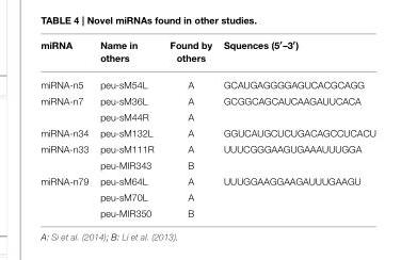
<table><thead><tr><td>miRNA</td><td>Name in others</td><td>Found by others</td><td>Squences (5′–3′)</td></tr></thead><tbody><tr><td>miRNA-n5</td><td>peu-sM54L</td><td>A</td><td>GCAUGAGGGGAGUCACGCAGG</td></tr><tr><td rowspan="2">miRNA-n7</td><td>peu-sM36L</td><td>A</td><td>GCGGCAGCAUCAAGAUUCACA</td></tr><tr><td>peu-sM44R</td><td>A</td><td></td></tr><tr><td>miRNA-n34</td><td>peu-sM132L</td><td>A</td><td>GGUCAUGCUCUGACAGCCUCACU</td></tr><tr><td rowspan="2">miRNA-n33</td><td>peu-sM111R</td><td>A</td><td>UUUCGGGAAGUGAAAUUUGGA</td></tr><tr><td>peu-MIR343</td><td>B</td><td></td></tr><tr><td rowspan="3">miRNA-n79</td><td>peu-sM64L</td><td>A</td><td>UUUGGAAGGAAGAUUUGAAGU</td></tr><tr><td>peu-sM70L</td><td>A</td><td></td></tr><tr><td>peu-MIR350</td><td>B</td><td></td></tr></tbody></table>